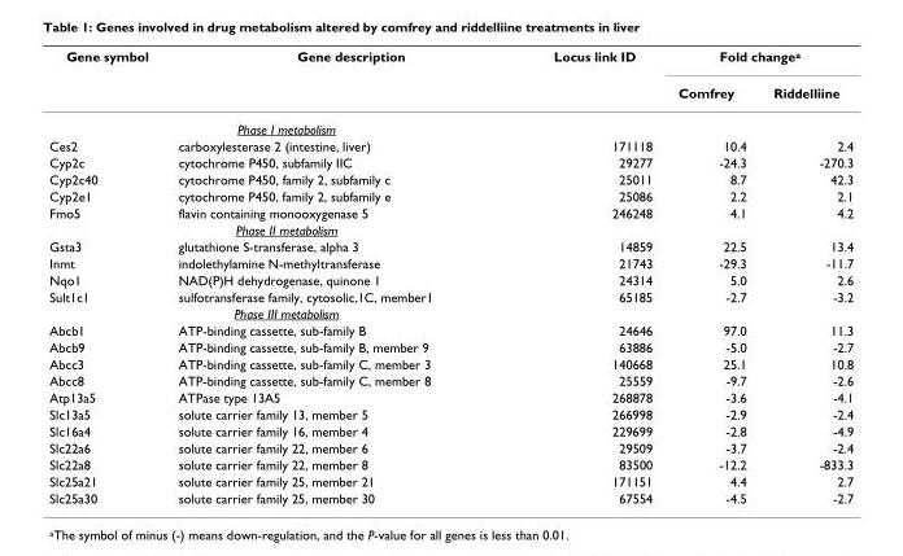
<table><thead><tr><td rowspan="2">Gene symbol</td><td rowspan="2">Gene description</td><td rowspan="2">Locus link ID</td><td colspan="2">Fold change<sup>a</sup></td></tr><tr><td>Comfrey</td><td>Riddelliine</td></tr></thead><tbody><tr><td colspan="5">Phase I metabolism</td></tr><tr><td>Ces2</td><td>carboxylesterase 2 (intestine, liver)</td><td>171118</td><td>10.4</td><td>2.4</td></tr><tr><td>Cyp2c</td><td>cytochrome P450, subfamily IIC</td><td>29277</td><td>-24.3</td><td>-270.3</td></tr><tr><td>Cyp2c40</td><td>cytochrome P450, family 2, subfamily c</td><td>25011</td><td>8.7</td><td>42.3</td></tr><tr><td>Cyp2e1</td><td>cytochrome P450, family 2, subfamily e</td><td>25086</td><td>2.2</td><td>2.1</td></tr><tr><td>Fmo5</td><td>flavin containing monooxygenase 5</td><td>246248</td><td>4.1</td><td>4.2</td></tr><tr><td colspan="5">Phase II metabolism</td></tr><tr><td>Gsta3</td><td>glutathione S-transferase, alpha 3</td><td>14859</td><td>22.5</td><td>13.4</td></tr><tr><td>Inmt</td><td>indolethylamine N-methyltransferase</td><td>21743</td><td>-29.3</td><td>-11.7</td></tr><tr><td>Nqo1</td><td>NAD(P)H dehydrogenase, quinone 1</td><td>24314</td><td>5.0</td><td>2.6</td></tr><tr><td>Sult1c1</td><td>sulfotransferase family, cytosolic,1C, member1</td><td>65185</td><td>-2.7</td><td>-3.2</td></tr><tr><td colspan="5">Phase III metabolism</td></tr><tr><td>Abcb1</td><td>ATP-binding cassette, sub-family B</td><td>24646</td><td>97.0</td><td>11.3</td></tr><tr><td>Abcb9</td><td>ATP-binding cassette, sub-family B, member 9</td><td>63886</td><td>-5.0</td><td>-2.7</td></tr><tr><td>Abcc3</td><td>ATP-binding cassette, sub-family C, member 3</td><td>140668</td><td>25.1</td><td>10.8</td></tr><tr><td>Abcc8</td><td>ATP-binding cassette, sub-family C, member 8</td><td>25559</td><td>-9.7</td><td>-2.6</td></tr><tr><td>Atp13a5</td><td>ATPase type 13A5</td><td>268878</td><td>-3.6</td><td>-4.1</td></tr><tr><td>Slc13a5</td><td>solute carrier family 13, member 5</td><td>266998</td><td>-2.9</td><td>-2.4</td></tr><tr><td>Slc16a4</td><td>solute carrier family 16, member 4</td><td>229699</td><td>-2.8</td><td>-4.9</td></tr><tr><td>Slc22a6</td><td>solute carrier family 22, member 6</td><td>29509</td><td>-3.7</td><td>-2.4</td></tr><tr><td>Slc22a8</td><td>solute carrier family 22, member 8</td><td>83500</td><td>-12.2</td><td>-833.3</td></tr><tr><td>Slc25a21</td><td>solute carrier family 25, member 21</td><td>171151</td><td>4.4</td><td>2.7</td></tr><tr><td>Slc25a30</td><td>solute carrier family 25, member 30</td><td>67554</td><td>-4.5</td><td>-2.7</td></tr></tbody></table>